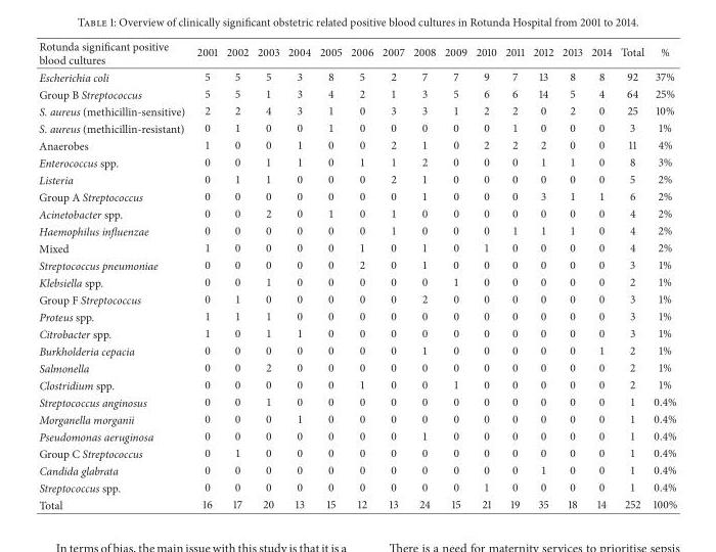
<table><thead><tr><td>Rotunda significant positive blood cultures</td><td>2001</td><td>2002</td><td>2003</td><td>2004</td><td>2005</td><td>2006</td><td>2007</td><td>2008</td><td>2009</td><td>2010</td><td>2011</td><td>2012</td><td>2013</td><td>2014</td><td>Total</td><td>%</td></tr></thead><tbody><tr><td>Escherichia coli</td><td>5</td><td>5</td><td>5</td><td>3</td><td>8</td><td>5</td><td>2</td><td>7</td><td>7</td><td>9</td><td>7</td><td>13</td><td>8</td><td>8</td><td>92</td><td>37%</td></tr><tr><td>Group B Streptococcus</td><td>5</td><td>5</td><td>1</td><td>3</td><td>4</td><td>2</td><td>1</td><td>3</td><td>5</td><td>6</td><td>6</td><td>14</td><td>5</td><td>4</td><td>64</td><td>25%</td></tr><tr><td>S. aureus (methicillin-sensitive)</td><td>2</td><td>2</td><td>4</td><td>3</td><td>1</td><td>0</td><td>3</td><td>3</td><td>1</td><td>2</td><td>2</td><td>0</td><td>2</td><td>0</td><td>25</td><td>10%</td></tr><tr><td>S. aureus (methicillin-resistant)</td><td>0</td><td>1</td><td>0</td><td>0</td><td>1</td><td>0</td><td>0</td><td>0</td><td>0</td><td>0</td><td>1</td><td>0</td><td>0</td><td>0</td><td>3</td><td>1%</td></tr><tr><td>Anaerobes</td><td>1</td><td>0</td><td>0</td><td>1</td><td>0</td><td>0</td><td>2</td><td>1</td><td>0</td><td>2</td><td>2</td><td>2</td><td>0</td><td>0</td><td>11</td><td>4%</td></tr><tr><td>Enterococcus spp.</td><td>0</td><td>0</td><td>1</td><td>1</td><td>0</td><td>1</td><td>1</td><td>2</td><td>0</td><td>0</td><td>0</td><td>1</td><td>1</td><td>0</td><td>8</td><td>3%</td></tr><tr><td>Listeria</td><td>0</td><td>1</td><td>1</td><td>0</td><td>0</td><td>0</td><td>2</td><td>1</td><td>0</td><td>0</td><td>0</td><td>0</td><td>0</td><td>0</td><td>5</td><td>2%</td></tr><tr><td>Group A Streptococcus</td><td>0</td><td>0</td><td>0</td><td>0</td><td>0</td><td>0</td><td>0</td><td>1</td><td>0</td><td>0</td><td>0</td><td>3</td><td>1</td><td>1</td><td>6</td><td>2%</td></tr><tr><td>Acinetobacter spp.</td><td>0</td><td>0</td><td>2</td><td>0</td><td>1</td><td>0</td><td>1</td><td>0</td><td>0</td><td>0</td><td>0</td><td>0</td><td>0</td><td>0</td><td>4</td><td>2%</td></tr><tr><td>Haemophilus influenzae</td><td>0</td><td>0</td><td>0</td><td>0</td><td>0</td><td>0</td><td>1</td><td>0</td><td>0</td><td>0</td><td>1</td><td>1</td><td>1</td><td>0</td><td>4</td><td>2%</td></tr><tr><td>Mixed</td><td>1</td><td>0</td><td>0</td><td>0</td><td>0</td><td>1</td><td>0</td><td>1</td><td>0</td><td>1</td><td>0</td><td>0</td><td>0</td><td>0</td><td>4</td><td>2%</td></tr><tr><td>Streptococcus pneumoniae</td><td>0</td><td>0</td><td>0</td><td>0</td><td>0</td><td>2</td><td>0</td><td>1</td><td>0</td><td>0</td><td>0</td><td>0</td><td>0</td><td>0</td><td>3</td><td>1%</td></tr><tr><td>Klebsiella spp.</td><td>0</td><td>0</td><td>1</td><td>0</td><td>0</td><td>0</td><td>0</td><td>0</td><td>1</td><td>0</td><td>0</td><td>0</td><td>0</td><td>0</td><td>2</td><td>1%</td></tr><tr><td>Group F Streptococcus</td><td>0</td><td>1</td><td>0</td><td>0</td><td>0</td><td>0</td><td>0</td><td>2</td><td>0</td><td>0</td><td>0</td><td>0</td><td>0</td><td>0</td><td>3</td><td>1%</td></tr><tr><td>Proteus spp.</td><td>1</td><td>1</td><td>1</td><td>0</td><td>0</td><td>0</td><td>0</td><td>0</td><td>0</td><td>0</td><td>0</td><td>0</td><td>0</td><td>0</td><td>3</td><td>1%</td></tr><tr><td>Citrobacter spp.</td><td>1</td><td>0</td><td>1</td><td>1</td><td>0</td><td>0</td><td>0</td><td>0</td><td>0</td><td>0</td><td>0</td><td>0</td><td>0</td><td>0</td><td>3</td><td>1%</td></tr><tr><td>Burkholderia cepacia</td><td>0</td><td>0</td><td>0</td><td>0</td><td>0</td><td>0</td><td>0</td><td>1</td><td>0</td><td>0</td><td>0</td><td>0</td><td>0</td><td>1</td><td>2</td><td>1%</td></tr><tr><td>Salmonella</td><td>0</td><td>0</td><td>2</td><td>0</td><td>0</td><td>0</td><td>0</td><td>0</td><td>0</td><td>0</td><td>0</td><td>0</td><td>0</td><td>0</td><td>2</td><td>1%</td></tr><tr><td>Clostridium spp.</td><td>0</td><td>0</td><td>0</td><td>0</td><td>0</td><td>1</td><td>0</td><td>0</td><td>1</td><td>0</td><td>0</td><td>0</td><td>0</td><td>0</td><td>2</td><td>1%</td></tr><tr><td>Streptococcus anginosus</td><td>0</td><td>0</td><td>1</td><td>0</td><td>0</td><td>0</td><td>0</td><td>0</td><td>0</td><td>0</td><td>0</td><td>0</td><td>0</td><td>0</td><td>1</td><td>0.4%</td></tr><tr><td>Morganella morganii</td><td>0</td><td>0</td><td>0</td><td>1</td><td>0</td><td>0</td><td>0</td><td>0</td><td>0</td><td>0</td><td>0</td><td>0</td><td>0</td><td>0</td><td>1</td><td>0.4%</td></tr><tr><td>Pseudomonas aeruginosa</td><td>0</td><td>0</td><td>0</td><td>0</td><td>0</td><td>0</td><td>0</td><td>1</td><td>0</td><td>0</td><td>0</td><td>0</td><td>0</td><td>0</td><td>1</td><td>0.4%</td></tr><tr><td>Group C Streptococcus</td><td>0</td><td>1</td><td>0</td><td>0</td><td>0</td><td>0</td><td>0</td><td>0</td><td>0</td><td>0</td><td>0</td><td>0</td><td>0</td><td>0</td><td>1</td><td>0.4%</td></tr><tr><td>Candida glabrata</td><td>0</td><td>0</td><td>0</td><td>0</td><td>0</td><td>0</td><td>0</td><td>0</td><td>0</td><td>0</td><td>0</td><td>1</td><td>0</td><td>0</td><td>1</td><td>0.4%</td></tr><tr><td>Streptococcus spp.</td><td>0</td><td>0</td><td>0</td><td>0</td><td>0</td><td>0</td><td>0</td><td>0</td><td>0</td><td>1</td><td>0</td><td>0</td><td>0</td><td>0</td><td>1</td><td>0.4%</td></tr><tr><td>Total</td><td>16</td><td>17</td><td>20</td><td>13</td><td>15</td><td>12</td><td>13</td><td>24</td><td>15</td><td>21</td><td>19</td><td>35</td><td>18</td><td>14</td><td>252</td><td>100%</td></tr></tbody></table>